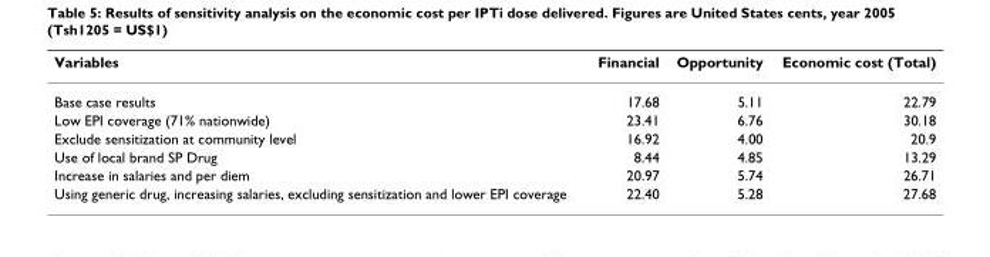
<table><thead><tr><td>Variables</td><td>Financial</td><td>Opportunity</td><td>Economic cost (Total)</td></tr></thead><tbody><tr><td>Base case results</td><td>17.68</td><td>5.11</td><td>22.79</td></tr><tr><td>Low EPI coverage (71% nationwide)</td><td>23.41</td><td>6.76</td><td>30.18</td></tr><tr><td>Exclude sensitization at community level</td><td>16.92</td><td>4.00</td><td>20.9</td></tr><tr><td>Use of local brand SP Drug</td><td>8.44</td><td>4.85</td><td>13.29</td></tr><tr><td>Increase in salaries and per diem</td><td>20.97</td><td>5.74</td><td>26.71</td></tr><tr><td>Using generic drug, increasing salaries, excluding sensitization and lower EPI coverage</td><td>22.40</td><td>5.28</td><td>27.68</td></tr></tbody></table>